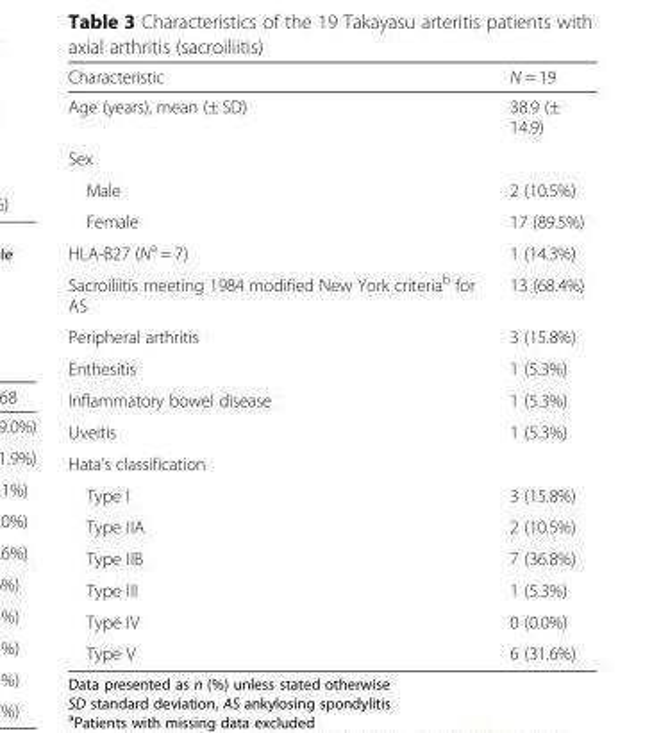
<table><thead><tr><td>Characteristic</td><td>N = 19</td></tr></thead><tbody><tr><td>Age (years), mean (± SD)</td><td>38.9 (± 14.9)</td></tr><tr><td colspan="2">Sex</td></tr><tr><td>Male</td><td>2 (10.5%)</td></tr><tr><td>Female</td><td>17 (89.5%)</td></tr><tr><td>HLA-B27 (N<sup>a</sup> = 7)</td><td>1 (14.3%)</td></tr><tr><td>Sacroiliitis meeting 1984 modified New York criteria<sup>b</sup> for AS</td><td>13 (68.4%)</td></tr><tr><td>Peripheral arthritis</td><td>3 (15.8%)</td></tr><tr><td>Enthesitis</td><td>1 (5.3%)</td></tr><tr><td>Inflammatory bowel disease</td><td>1 (5.3%)</td></tr><tr><td>Uveitis</td><td>1 (5.3%)</td></tr><tr><td colspan="2">Hata’s classification</td></tr><tr><td>Type I</td><td>3 (15.8%)</td></tr><tr><td>Type IIA</td><td>2 (10.5%)</td></tr><tr><td>Type IIB</td><td>7 (36.8%)</td></tr><tr><td>Type III</td><td>1 (5.3%)</td></tr><tr><td>Type IV</td><td>0 (0.0%)</td></tr><tr><td>Type V</td><td>6 (31.6%)</td></tr></tbody></table>